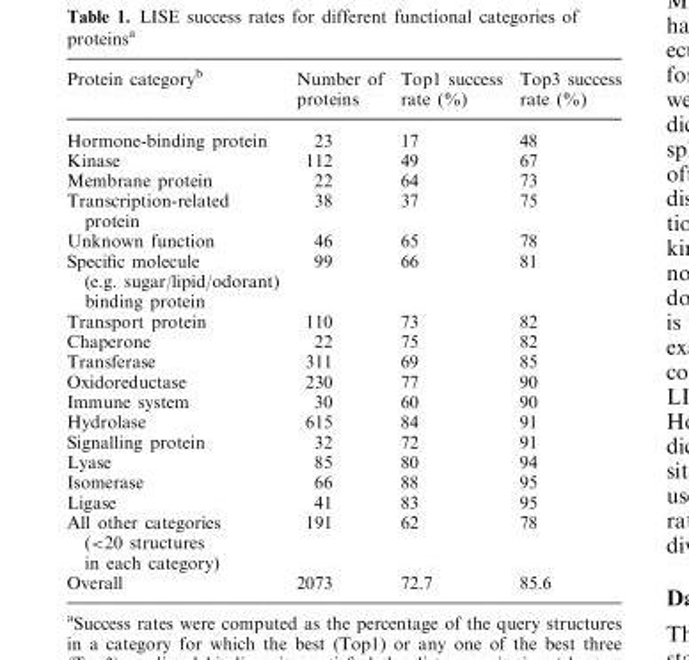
<table><thead><tr><td>Protein category<sup>b</sup></td><td>Number of proteins</td><td>Top1 success rate (%)</td><td>Top3 success rate (%)</td></tr></thead><tbody><tr><td>Hormone-binding protein</td><td>23</td><td>17</td><td>48</td></tr><tr><td>Kinase</td><td>112</td><td>49</td><td>67</td></tr><tr><td>Membrane protein</td><td>22</td><td>64</td><td>73</td></tr><tr><td>Transcription-related protein</td><td>38</td><td>37</td><td>75</td></tr><tr><td>Unknown function</td><td>46</td><td>65</td><td>78</td></tr><tr><td>Specific molecule (e.g. sugar/lipid/odorant) binding protein</td><td>99</td><td>66</td><td>81</td></tr><tr><td>Transport protein</td><td>110</td><td>73</td><td>82</td></tr><tr><td>Chaperone</td><td>22</td><td>75</td><td>82</td></tr><tr><td>Transferase</td><td>311</td><td>69</td><td>85</td></tr><tr><td>Oxidoreductase</td><td>230</td><td>77</td><td>90</td></tr><tr><td>Immune system</td><td>30</td><td>60</td><td>90</td></tr><tr><td>Hydrolase</td><td>615</td><td>84</td><td>91</td></tr><tr><td>Signalling protein</td><td>32</td><td>72</td><td>91</td></tr><tr><td>Lyase</td><td>85</td><td>80</td><td>94</td></tr><tr><td>Isomerase</td><td>66</td><td>88</td><td>95</td></tr><tr><td>Ligase</td><td>41</td><td>83</td><td>95</td></tr><tr><td>All other categories (&lt;20 structures in each category)</td><td>191</td><td>62</td><td>78</td></tr><tr><td>Overall</td><td>2073</td><td>72.7</td><td>85.6</td></tr></tbody></table>